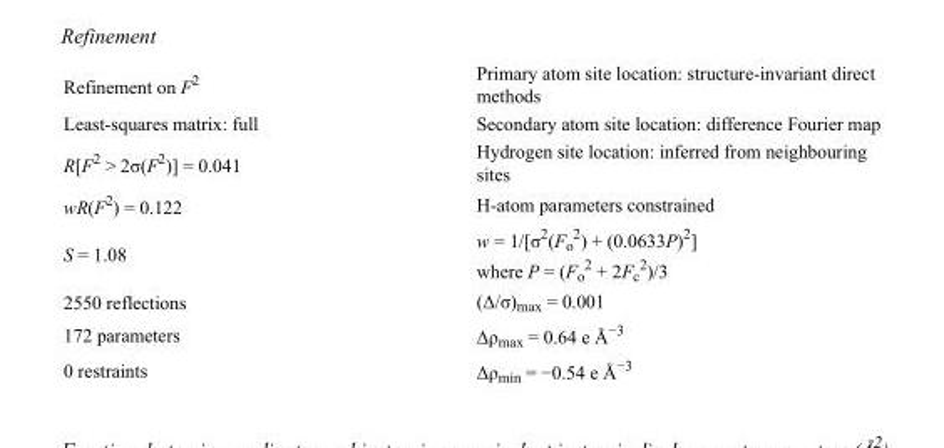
<table><tbody><tr><td>Refinement on F<sup>2</sup></td><td>Primary atom site location: structure-invariant direct methods</td></tr><tr><td>Least-squares matrix: full</td><td>Secondary atom site location: difference Fourier map</td></tr><tr><td>R[F<sup>2</sup> &gt; 2σ(F<sup>2</sup>)] = 0.041</td><td>Hydrogen site location: inferred from neighbouring sites</td></tr><tr><td>wR(F<sup>2</sup>) = 0.122</td><td>H-atom parameters constrained</td></tr><tr><td>S = 1.08</td><td>w = 1/[σ<sup>2</sup>(F<sub>o</sub> <sup>2</sup>) + (0.0633P)<sup>2</sup>] where P = (F<sub>o</sub> <sup>2</sup> + 2F<sub>c</sub> <sup>2</sup>)/3</td></tr><tr><td>2550 reflections</td><td>(Δ/σ)<sub>max</sub> = 0.001</td></tr><tr><td>172 parameters</td><td>Δρ<sub>max</sub> = 0.64 e Å<sup>−3</sup></td></tr><tr><td>0 restraints</td><td>Δρ<sub>min</sub> = −0.54 e Å<sup>−3</sup></td></tr></tbody></table>